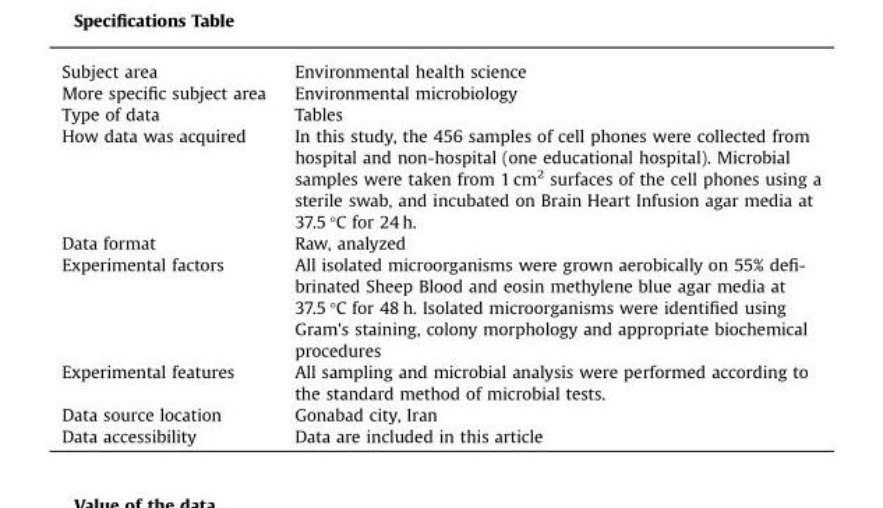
<table><tbody><tr><td>Subject area</td><td>Environmental health science</td></tr><tr><td>More specific subject area</td><td>Environmental microbiology</td></tr><tr><td>Type of data</td><td>Tables</td></tr><tr><td>How data was acquired</td><td>In this study, the 456 samples of cell phones were collected from hospital and non-hospital (one educational hospital). Microbial samples were taken from 1 cm<sup>2</sup> surfaces of the cell phones using a sterile swab, and incubated on Brain Heart Infusion agar media at 37.5 °C for 24 h.</td></tr><tr><td>Data format</td><td>Raw, analyzed</td></tr><tr><td>Experimental factors</td><td>All isolated microorganisms were grown aerobically on 55% defi- brinated Sheep Blood and eosin methylene blue agar media at 37.5 °C for 48 h. Isolated microorganisms were identified using Gram&#x27;s staining, colony morphology and appropriate biochemical procedures</td></tr><tr><td>Experimental features</td><td>All sampling and microbial analysis were performed according to the standard method of microbial tests.</td></tr><tr><td>Data source location</td><td>Gonabad city, Iran</td></tr><tr><td>Data accessibility</td><td>Data are included in this article</td></tr></tbody></table>